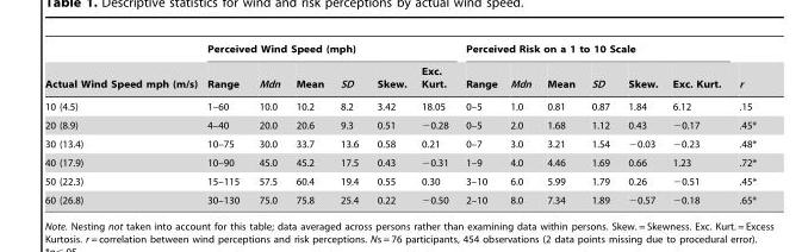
<table><thead><tr><td rowspan="2">Actual Wind Speed mph (m/s)</td><td colspan="6">Perceived Wind Speed (mph)</td><td colspan="6">Perceived Risk on a 1 to 10 Scale</td><td rowspan="2">r</td></tr><tr><td>Range</td><td>Mdn</td><td>Mean</td><td>SD</td><td>Skew.</td><td>Exc. Kurt.</td><td>Range</td><td>Mdn</td><td>Mean</td><td>SD</td><td>Skew.</td><td>Exc. Kurt.</td></tr></thead><tbody><tr><td>10 (4.5)</td><td>1–60</td><td>10.0</td><td>10.2</td><td>8.2</td><td>3.42</td><td>18.05</td><td>0–5</td><td>1.0</td><td>0.81</td><td>0.87</td><td>1.84</td><td>6.12</td><td>.15</td></tr><tr><td>20 (8.9)</td><td>4–40</td><td>20.0</td><td>20.6</td><td>9.3</td><td>0.51</td><td>−0.28</td><td>0–5</td><td>2.0</td><td>1.68</td><td>1.12</td><td>0.43</td><td>−0.17</td><td>.45*</td></tr><tr><td>30 (13.4)</td><td>10–75</td><td>30.0</td><td>33.7</td><td>13.6</td><td>0.58</td><td>0.21</td><td>0–7</td><td>3.0</td><td>3.21</td><td>1.54</td><td>−0.03</td><td>−0.23</td><td>.48*</td></tr><tr><td>40 (17.9)</td><td>10–90</td><td>45.0</td><td>45.2</td><td>17.5</td><td>0.43</td><td>−0.31</td><td>1–9</td><td>4.0</td><td>4.46</td><td>1.69</td><td>0.66</td><td>1.23</td><td>.72*</td></tr><tr><td>50 (22.3)</td><td>15–115</td><td>57.5</td><td>60.4</td><td>19.4</td><td>0.55</td><td>0.30</td><td>3–10</td><td>6.0</td><td>5.99</td><td>1.79</td><td>0.26</td><td>−0.51</td><td>.45*</td></tr><tr><td>60 (26.8)</td><td>30–130</td><td>75.0</td><td>75.8</td><td>25.4</td><td>0.22</td><td>−0.50</td><td>2–10</td><td>8.0</td><td>7.34</td><td>1.89</td><td>−0.57</td><td>−0.18</td><td>.65*</td></tr></tbody></table>